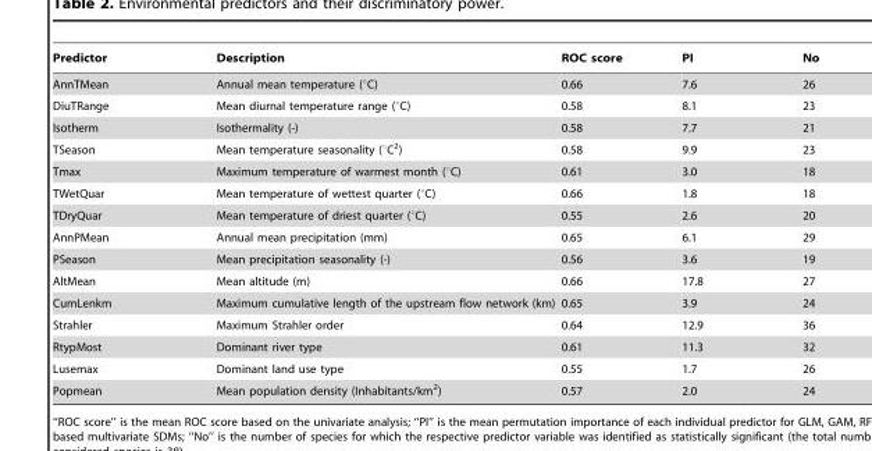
<table><thead><tr><td>Predictor</td><td>Description</td><td>ROC score</td><td>PI</td><td>No</td></tr></thead><tbody><tr><td>AnnTMean</td><td>Annual mean temperature (°C)</td><td>0.66</td><td>7.6</td><td>26</td></tr><tr><td>DiuTRange</td><td>Mean diurnal temperature range (°C)</td><td>0.58</td><td>8.1</td><td>23</td></tr><tr><td>Isotherm</td><td>Isothermality (-)</td><td>0.58</td><td>7.7</td><td>21</td></tr><tr><td>TSeason</td><td>Mean temperature seasonality (°C<sup>2</sup>)</td><td>0.58</td><td>9.9</td><td>23</td></tr><tr><td>Tmax</td><td>Maximum temperature of warmest month (°C)</td><td>0.61</td><td>3.0</td><td>18</td></tr><tr><td>TWetQuar</td><td>Mean temperature of wettest quarter (°C)</td><td>0.66</td><td>1.8</td><td>18</td></tr><tr><td>TDryQuar</td><td>Mean temperature of driest quarter (°C)</td><td>0.55</td><td>2.6</td><td>20</td></tr><tr><td>AnnPMean</td><td>Annual mean precipitation (mm)</td><td>0.65</td><td>6.1</td><td>29</td></tr><tr><td>PSeason</td><td>Mean precipitation seasonality (-)</td><td>0.56</td><td>3.6</td><td>19</td></tr><tr><td>AltMean</td><td>Mean altitude (m)</td><td>0.66</td><td>17.8</td><td>27</td></tr><tr><td>CumLenkm</td><td>Maximum cumulative length of the upstream flow network (km)</td><td>0.65</td><td>3.9</td><td>24</td></tr><tr><td>Strahler</td><td>Maximum Strahler order</td><td>0.64</td><td>12.9</td><td>36</td></tr><tr><td>RtypMost</td><td>Dominant river type</td><td>0.61</td><td>11.3</td><td>32</td></tr><tr><td>Lusemax</td><td>Dominant land use type</td><td>0.55</td><td>1.7</td><td>26</td></tr><tr><td>Popmean</td><td>Mean population density (Inhabitants/km<sup>2</sup>)</td><td>0.57</td><td>2.0</td><td>24</td></tr></tbody></table>